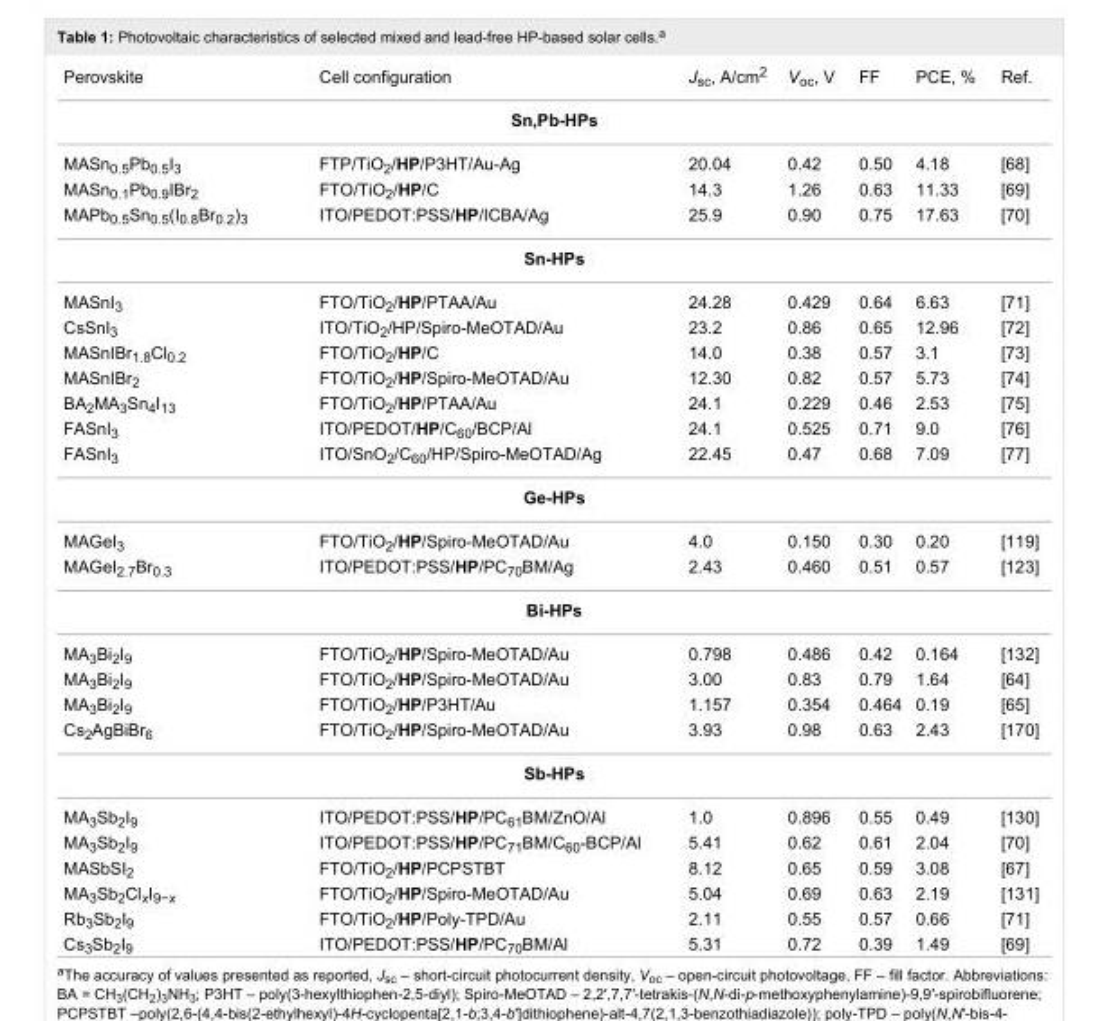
<table><tbody><tr><td>Perovskite</td><td>Cell configuration</td><td>J<sub>sc</sub>, A/cm<sup>2</sup></td><td>V<sub>oc</sub>, V</td><td>FF</td><td>PCE, %</td><td>Ref.</td></tr><tr><td colspan="7">Sn,Pb-HPs</td></tr><tr><td>MASn<sub>0.5</sub>Pb<sub>0.5</sub>I<sub>3</sub></td><td>FTP/TiO<sub>2</sub>/HP/P3HT/Au-Ag</td><td>20.04</td><td>0.42</td><td>0.50</td><td>4.18</td><td>[68]</td></tr><tr><td>MASn<sub>0.1</sub>Pb<sub>0.9</sub>IBr<sub>2</sub></td><td>FTO/TiO<sub>2</sub>/HP/C</td><td>14.3</td><td>1.26</td><td>0.63</td><td>11.33</td><td>[69]</td></tr><tr><td>MAPb<sub>0.5</sub>Sn<sub>0.5</sub>(I<sub>0.8</sub>Br<sub>0.2</sub>)<sub>3</sub></td><td>ITO/PEDOT:PSS/HP/ICBA/Ag</td><td>25.9</td><td>0.90</td><td>0.75</td><td>17.63</td><td>[70]</td></tr><tr><td colspan="7">Sn-HPs</td></tr><tr><td>MASnI<sub>3</sub></td><td>FTO/TiO<sub>2</sub>/HP/PTAA/Au</td><td>24.28</td><td>0.429</td><td>0.64</td><td>6.63</td><td>[71]</td></tr><tr><td>CsSnI<sub>3</sub></td><td>ITO/TiO<sub>2</sub>/HP/Spiro-MeOTAD/Au</td><td>23.2</td><td>0.86</td><td>0.65</td><td>12.96</td><td>[72]</td></tr><tr><td>MASnIBr<sub>1.8</sub>Cl<sub>0.2</sub></td><td>FTO/TiO<sub>2</sub>/HP/C</td><td>14.0</td><td>0.38</td><td>0.57</td><td>3.1</td><td>[73]</td></tr><tr><td>MASnIBr<sub>2</sub></td><td>FTO/TiO<sub>2</sub>/HP/Spiro-MeOTAD/Au</td><td>12.30</td><td>0.82</td><td>0.57</td><td>5.73</td><td>[74]</td></tr><tr><td>BA<sub>2</sub>MA<sub>3</sub>Sn<sub>4</sub>I<sub>13</sub></td><td>FTO/TiO<sub>2</sub>/HP/PTAA/Au</td><td>24.1</td><td>0.229</td><td>0.46</td><td>2.53</td><td>[75]</td></tr><tr><td>FASnI<sub>3</sub></td><td>ITO/PEDOT/HP/C<sub>60</sub>/BCP/Al</td><td>24.1</td><td>0.525</td><td>0.71</td><td>9.0</td><td>[76]</td></tr><tr><td>FASnI<sub>3</sub></td><td>ITO/SnO<sub>2</sub>/C<sub>60</sub>/HP/Spiro-MeOTAD/Ag</td><td>22.45</td><td>0.47</td><td>0.68</td><td>7.09</td><td>[77]</td></tr><tr><td colspan="7">Ge-HPs</td></tr><tr><td>MAGeI<sub>3</sub></td><td>FTO/TiO<sub>2</sub>/HP/Spiro-MeOTAD/Au</td><td>4.0</td><td>0.150</td><td>0.30</td><td>0.20</td><td>[119]</td></tr><tr><td>MAGeI<sub>2.7</sub>Br<sub>0.3</sub></td><td>ITO/PEDOT:PSS/HP/PC<sub>70</sub>BM/Ag</td><td>2.43</td><td>0.460</td><td>0.51</td><td>0.57</td><td>[123]</td></tr><tr><td colspan="7">Bi-HPs</td></tr><tr><td>MA<sub>3</sub>Bi<sub>2</sub>I<sub>9</sub></td><td>FTO/TiO<sub>2</sub>/HP/Spiro-MeOTAD/Au</td><td>0.798</td><td>0.486</td><td>0.42</td><td>0.164</td><td>[132]</td></tr><tr><td>MA<sub>3</sub>Bi<sub>2</sub>I<sub>9</sub></td><td>FTO/TiO<sub>2</sub>/HP/Spiro-MeOTAD/Au</td><td>3.00</td><td>0.83</td><td>0.79</td><td>1.64</td><td>[64]</td></tr><tr><td>MA<sub>3</sub>Bi<sub>2</sub>I<sub>9</sub></td><td>FTO/TiO<sub>2</sub>/HP/P3HT/Au</td><td>1.157</td><td>0.354</td><td>0.464</td><td>0.19</td><td>[65]</td></tr><tr><td>Cs<sub>2</sub>AgBiBr<sub>6</sub></td><td>FTO/TiO<sub>2</sub>/HP/Spiro-MeOTAD/Au</td><td>3.93</td><td>0.98</td><td>0.63</td><td>2.43</td><td>[170]</td></tr><tr><td colspan="7">Sb-HPs</td></tr><tr><td>MA<sub>3</sub>Sb<sub>2</sub>I<sub>9</sub></td><td>ITO/PEDOT:PSS/HP/PC<sub>61</sub>BM/ZnO/Al</td><td>1.0</td><td>0.896</td><td>0.55</td><td>0.49</td><td>[130]</td></tr><tr><td>MA<sub>3</sub>Sb<sub>2</sub>I<sub>9</sub></td><td>ITO/PEDOT:PSS/HP/PC<sub>71</sub>BM/C<sub>60</sub>-BCP/Al</td><td>5.41</td><td>0.62</td><td>0.61</td><td>2.04</td><td>[70]</td></tr><tr><td>MASbSI<sub>2</sub></td><td>FTO/TiO<sub>2</sub>/HP/PCPSTBT</td><td>8.12</td><td>0.65</td><td>0.59</td><td>3.08</td><td>[67]</td></tr><tr><td>MA<sub>3</sub>Sb<sub>2</sub>Cl<sub>x</sub>I<sub>9−x</sub></td><td>FTO/TiO<sub>2</sub>/HP/Spiro-MeOTAD/Au</td><td>5.04</td><td>0.69</td><td>0.63</td><td>2.19</td><td>[131]</td></tr><tr><td>Rb<sub>3</sub>Sb<sub>2</sub>I<sub>9</sub></td><td>FTO/TiO<sub>2</sub>/HP/Poly-TPD/Au</td><td>2.11</td><td>0.55</td><td>0.57</td><td>0.66</td><td>[71]</td></tr><tr><td>Cs<sub>3</sub>Sb<sub>2</sub>I<sub>9</sub></td><td>ITO/PEDOT:PSS/HP/PC<sub>70</sub>BM/Al</td><td>5.31</td><td>0.72</td><td>0.39</td><td>1.49</td><td>[69]</td></tr></tbody></table>